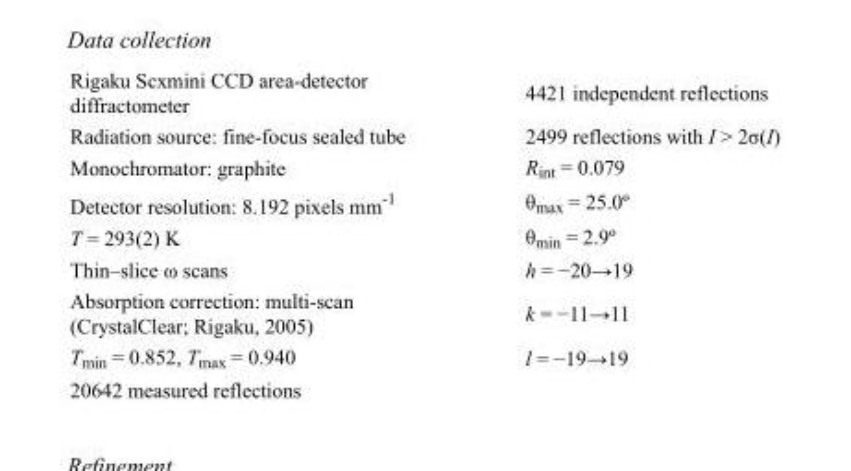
<table><tbody><tr><td>Rigaku Scxmini CCD area-detector diffractometer</td><td>4421 independent reflections</td></tr><tr><td>Radiation source: fine-focus sealed tube</td><td>2499 reflections with I &gt; 2σ(I)</td></tr><tr><td>Monochromator: graphite</td><td>R<sub>int</sub> = 0.079</td></tr><tr><td>Detector resolution: 8.192 pixels mm<sup>-1</sup></td><td>θ<sub>max</sub> = 25.0º</td></tr><tr><td>T = 293(2) K</td><td>θ<sub>min</sub> = 2.9º</td></tr><tr><td>Thin–slice ω scans</td><td>h = −20→19</td></tr><tr><td>Absorption correction: multi-scan (CrystalClear; Rigaku, 2005)</td><td>k = −11→11</td></tr><tr><td>T<sub>min</sub> = 0.852, T<sub>max</sub> = 0.940</td><td>l = −19→19</td></tr><tr><td>20642 measured reflections</td><td></td></tr></tbody></table>